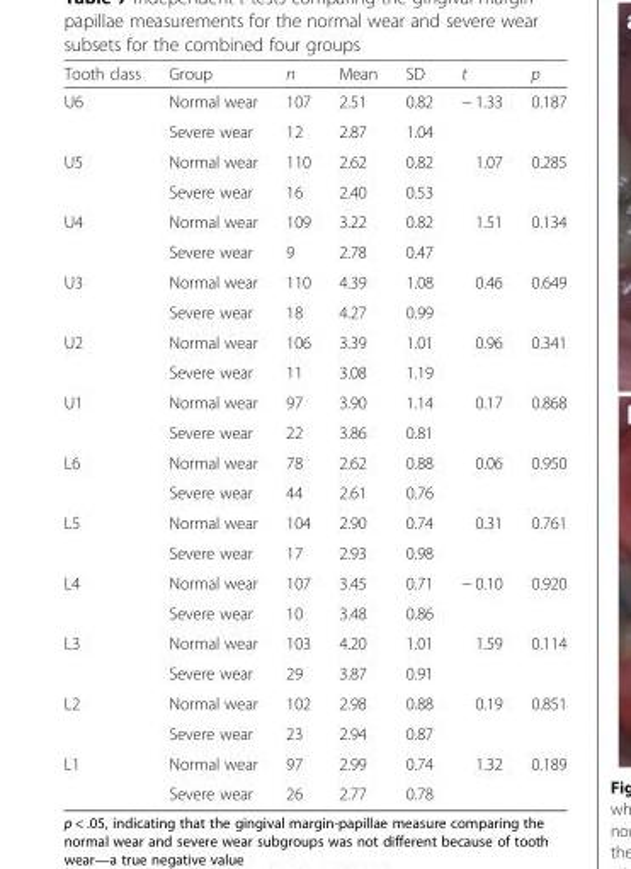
<table><thead><tr><td>Tooth class</td><td>Group</td><td>n</td><td>Mean</td><td>SD</td><td>t</td><td>p</td></tr></thead><tbody><tr><td rowspan="2">U6</td><td>Normal wear</td><td>107</td><td>2.51</td><td>0.82</td><td rowspan="2">− 1.33</td><td rowspan="2">0.187</td></tr><tr><td>Severe wear</td><td>12</td><td>2.87</td><td>1.04</td></tr><tr><td rowspan="2">U5</td><td>Normal wear</td><td>110</td><td>2.62</td><td>0.82</td><td rowspan="2">1.07</td><td rowspan="2">0.285</td></tr><tr><td>Severe wear</td><td>16</td><td>2.40</td><td>0.53</td></tr><tr><td rowspan="2">U4</td><td>Normal wear</td><td>109</td><td>3.22</td><td>0.82</td><td rowspan="2">1.51</td><td rowspan="2">0.134</td></tr><tr><td>Severe wear</td><td>9</td><td>2.78</td><td>0.47</td></tr><tr><td rowspan="2">U3</td><td>Normal wear</td><td>110</td><td>4.39</td><td>1.08</td><td rowspan="2">0.46</td><td rowspan="2">0.649</td></tr><tr><td>Severe wear</td><td>18</td><td>4.27</td><td>0.99</td></tr><tr><td rowspan="2">U2</td><td>Normal wear</td><td>106</td><td>3.39</td><td>1.01</td><td rowspan="2">0.96</td><td rowspan="2">0.341</td></tr><tr><td>Severe wear</td><td>11</td><td>3.08</td><td>1.19</td></tr><tr><td rowspan="2">U1</td><td>Normal wear</td><td>97</td><td>3.90</td><td>1.14</td><td rowspan="2">0.17</td><td rowspan="2">0.868</td></tr><tr><td>Severe wear</td><td>22</td><td>3.86</td><td>0.81</td></tr><tr><td rowspan="2">L6</td><td>Normal wear</td><td>78</td><td>2.62</td><td>0.88</td><td rowspan="2">0.06</td><td rowspan="2">0.950</td></tr><tr><td>Severe wear</td><td>44</td><td>2.61</td><td>0.76</td></tr><tr><td rowspan="2">L5</td><td>Normal wear</td><td>104</td><td>2.90</td><td>0.74</td><td rowspan="2">0.31</td><td rowspan="2">0.761</td></tr><tr><td>Severe wear</td><td>17</td><td>2.93</td><td>0.98</td></tr><tr><td rowspan="2">L4</td><td>Normal wear</td><td>107</td><td>3.45</td><td>0.71</td><td rowspan="2">− 0.10</td><td rowspan="2">0.920</td></tr><tr><td>Severe wear</td><td>10</td><td>3.48</td><td>0.86</td></tr><tr><td rowspan="2">L3</td><td>Normal wear</td><td>103</td><td>4.20</td><td>1.01</td><td rowspan="2">1.59</td><td rowspan="2">0.114</td></tr><tr><td>Severe wear</td><td>29</td><td>3.87</td><td>0.91</td></tr><tr><td rowspan="2">L2</td><td>Normal wear</td><td>102</td><td>2.98</td><td>0.88</td><td rowspan="2">0.19</td><td rowspan="2">0.851</td></tr><tr><td>Severe wear</td><td>23</td><td>2.94</td><td>0.87</td></tr><tr><td rowspan="2">L1</td><td>Normal wear</td><td>97</td><td>2.99</td><td>0.74</td><td rowspan="2">1.32</td><td rowspan="2">0.189</td></tr><tr><td>Severe wear</td><td>26</td><td>2.77</td><td>0.78</td></tr></tbody></table>